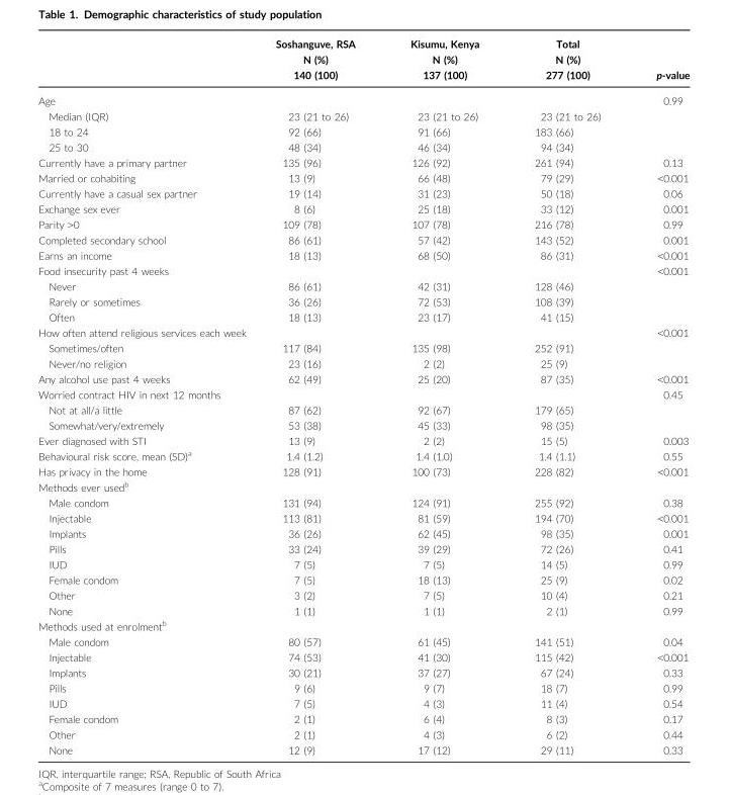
<table><thead><tr><td rowspan="2"></td><td rowspan="2">Soshanguve, RSA N (%) 140 (100)</td><td rowspan="2">Kisumu, Kenya N (%) 137 (100)</td><td rowspan="2">Total N (%) 277 (100)</td><td rowspan="2">p-value</td></tr><tr></tr></thead><tbody><tr><td>Age</td><td></td><td></td><td></td><td>0.99</td></tr><tr><td>Median (IQR)</td><td>23 (21 to 26)</td><td>23 (21 to 26)</td><td>23 (21 to 26)</td><td></td></tr><tr><td>18 to 24</td><td>92 (66)</td><td>91 (66)</td><td>183 (66)</td><td></td></tr><tr><td>25 to 30</td><td>48 (34)</td><td>46 (34)</td><td>94 (34)</td><td></td></tr><tr><td>Currently have a primary partner</td><td>135 (96)</td><td>126 (92)</td><td>261 (94)</td><td>0.13</td></tr><tr><td>Married or cohabiting</td><td>13 (9)</td><td>66 (48)</td><td>79 (29)</td><td>&lt;0.001</td></tr><tr><td>Currently have a casual sex partner</td><td>19 (14)</td><td>31 (23)</td><td>50 (18)</td><td>0.06</td></tr><tr><td>Exchange sex ever</td><td>8 (6)</td><td>25 (18)</td><td>33 (12)</td><td>0.001</td></tr><tr><td>Parity &gt;0</td><td>109 (78)</td><td>107 (78)</td><td>216 (78)</td><td>0.99</td></tr><tr><td>Completed secondary school</td><td>86 (61)</td><td>57 (42)</td><td>143 (52)</td><td>0.001</td></tr><tr><td>Earns an income</td><td>18 (13)</td><td>68 (50)</td><td>86 (31)</td><td>&lt;0.001</td></tr><tr><td>Food insecurity past 4 weeks</td><td></td><td></td><td></td><td>&lt;0.001</td></tr><tr><td>Never</td><td>86 (61)</td><td>42 (31)</td><td>128 (46)</td><td></td></tr><tr><td>Rarely or sometimes</td><td>36 (26)</td><td>72 (53)</td><td>108 (39)</td><td></td></tr><tr><td>Often</td><td>18 (13)</td><td>23 (17)</td><td>41 (15)</td><td></td></tr><tr><td colspan="2">How often attend religious services each week</td><td></td><td></td><td>&lt;0.001</td></tr><tr><td>Sometimes/often</td><td>117 (84)</td><td>135 (98)</td><td>252 (91)</td><td></td></tr><tr><td>Never/no religion</td><td>23 (16)</td><td>2 (2)</td><td>25 (9)</td><td></td></tr><tr><td>Any alcohol use past 4 weeks</td><td>62 (49)</td><td>25 (20)</td><td>87 (35)</td><td>&lt;0.001</td></tr><tr><td>Worried contract HIV in next 12 months</td><td></td><td></td><td></td><td>0.45</td></tr><tr><td>Not at all/a little</td><td>87 (62)</td><td>92 (67)</td><td>179 (65)</td><td></td></tr><tr><td>Somewhat/very/extremely</td><td>53 (38)</td><td>45 (33)</td><td>98 (35)</td><td></td></tr><tr><td>Ever diagnosed with STI</td><td>13 (9)</td><td>2 (2)</td><td>15 (5)</td><td>0.003</td></tr><tr><td>Behavioural risk score, mean (SD)<sup>a</sup></td><td>1.4 (1.2)</td><td>1.4 (1.0)</td><td>1.4 (1.1)</td><td>0.55</td></tr><tr><td>Has privacy in the home</td><td>128 (91)</td><td>100 (73)</td><td>228 (82)</td><td>&lt;0.001</td></tr><tr><td colspan="5">Methods ever used<sup>b</sup></td></tr><tr><td>Male condom</td><td>131 (94)</td><td>124 (91)</td><td>255 (92)</td><td>0.38</td></tr><tr><td>Injectable</td><td>113 (81)</td><td>81 (59)</td><td>194 (70)</td><td>&lt;0.001</td></tr><tr><td>Implants</td><td>36 (26)</td><td>62 (45)</td><td>98 (35)</td><td>0.001</td></tr><tr><td>Pills</td><td>33 (24)</td><td>39 (29)</td><td>72 (26)</td><td>0.41</td></tr><tr><td>IUD</td><td>7 (5)</td><td>7 (5)</td><td>14 (5)</td><td>0.99</td></tr><tr><td>Female condom</td><td>7 (5)</td><td>18 (13)</td><td>25 (9)</td><td>0.02</td></tr><tr><td>Other</td><td>3 (2)</td><td>7 (5)</td><td>10 (4)</td><td>0.21</td></tr><tr><td>None</td><td>1 (1)</td><td>1 (1)</td><td>2 (1)</td><td>0.99</td></tr><tr><td colspan="5">Methods used at enrolment<sup>b</sup></td></tr><tr><td>Male condom</td><td>80 (57)</td><td>61 (45)</td><td>141 (51)</td><td>0.04</td></tr><tr><td>Injectable</td><td>74 (53)</td><td>41 (30)</td><td>115 (42)</td><td>&lt;0.001</td></tr><tr><td>Implants</td><td>30 (21)</td><td>37 (27)</td><td>67 (24)</td><td>0.33</td></tr><tr><td>Pills</td><td>9 (6)</td><td>9 (7)</td><td>18 (7)</td><td>0.99</td></tr><tr><td>IUD</td><td>7 (5)</td><td>4 (3)</td><td>11 (4)</td><td>0.54</td></tr><tr><td>Female condom</td><td>2 (1)</td><td>6 (4)</td><td>8 (3)</td><td>0.17</td></tr><tr><td>Other</td><td>2 (1)</td><td>4 (3)</td><td>6 (2)</td><td>0.44</td></tr><tr><td>None</td><td>12 (9)</td><td>17 (12)</td><td>29 (11)</td><td>0.33</td></tr></tbody></table>